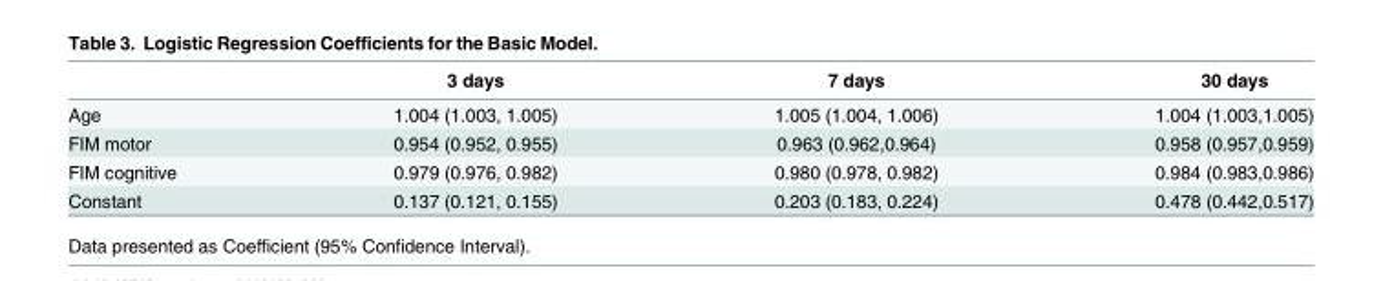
<table><thead><tr><td></td><td>3 days</td><td>7 days</td><td>30 days</td></tr></thead><tbody><tr><td>Age</td><td>1.004 (1.003, 1.005)</td><td>1.005 (1.004, 1.006)</td><td>1.004 (1.003,1.005)</td></tr><tr><td>FIM motor</td><td>0.954 (0.952, 0.955)</td><td>0.963 (0.962,0.964)</td><td>0.958 (0.957,0.959)</td></tr><tr><td>FIM cognitive</td><td>0.979 (0.976, 0.982)</td><td>0.980 (0.978, 0.982)</td><td>0.984 (0.983,0.986)</td></tr><tr><td>Constant</td><td>0.137 (0.121, 0.155)</td><td>0.203 (0.183, 0.224)</td><td>0.478 (0.442,0.517)</td></tr></tbody></table>